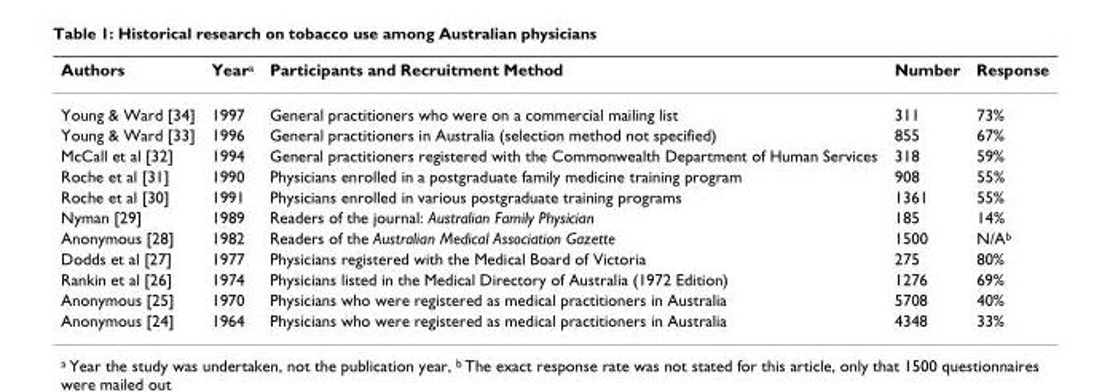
<table><thead><tr><td>Authors</td><td>Year<sup>a</sup></td><td>Participants and Recruitment Method</td><td>Number</td><td>Response</td></tr></thead><tbody><tr><td>Young &amp; Ward [34]</td><td>1997</td><td>General practitioners who were on a commercial mailing list</td><td>311</td><td>73%</td></tr><tr><td>Young &amp; Ward [33]</td><td>1996</td><td>General practitioners in Australia (selection method not specified)</td><td>855</td><td>67%</td></tr><tr><td>McCall et al [32]</td><td>1994</td><td>General practitioners registered with the Commonwealth Department of Human Services</td><td>318</td><td>59%</td></tr><tr><td>Roche et al [31]</td><td>1990</td><td>Physicians enrolled in a postgraduate family medicine training program</td><td>908</td><td>55%</td></tr><tr><td>Roche et al [30]</td><td>1991</td><td>Physicians enrolled in various postgraduate training programs</td><td>1361</td><td>55%</td></tr><tr><td>Nyman [29]</td><td>1989</td><td>Readers of the journal: Australian Family Physician</td><td>185</td><td>14%</td></tr><tr><td>Anonymous [28]</td><td>1982</td><td>Readers of the Australian Medical Association Gazette</td><td>1500</td><td>N/A<sup>b</sup></td></tr><tr><td>Dodds et al [27]</td><td>1977</td><td>Physicians registered with the Medical Board of Victoria</td><td>275</td><td>80%</td></tr><tr><td>Rankin et al [26]</td><td>1974</td><td>Physicians listed in the Medical Directory of Australia (1972 Edition)</td><td>1276</td><td>69%</td></tr><tr><td>Anonymous [25]</td><td>1970</td><td>Physicians who were registered as medical practitioners in Australia</td><td>5708</td><td>40%</td></tr><tr><td>Anonymous [24]</td><td>1964</td><td>Physicians who were registered as medical practitioners in Australia</td><td>4348</td><td>33%</td></tr></tbody></table>